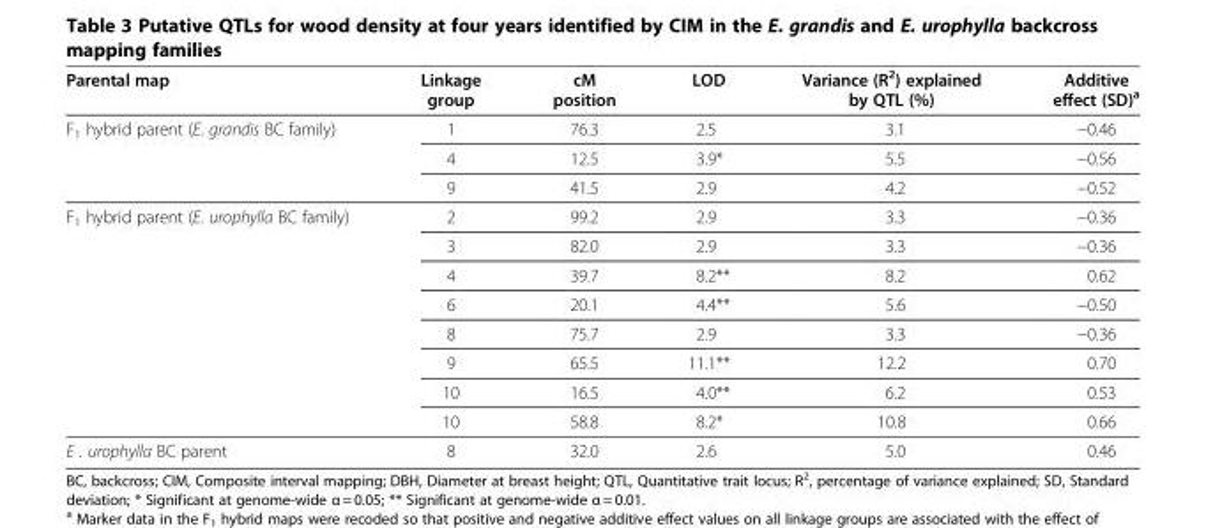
<table><thead><tr><td>Parental map</td><td>Linkage group</td><td>cM position</td><td>LOD</td><td>Variance (R<sup>2</sup>) explained by QTL (%)</td><td>Additive effect (SD)<sup>a</sup></td></tr></thead><tbody><tr><td rowspan="3">F<sub>1</sub> hybrid parent (E. grandis BC family)</td><td>1</td><td>76.3</td><td>2.5</td><td>3.1</td><td>−0.46</td></tr><tr><td>4</td><td>12.5</td><td>3.9*</td><td>5.5</td><td>−0.56</td></tr><tr><td>9</td><td>41.5</td><td>2.9</td><td>4.2</td><td>−0.52</td></tr><tr><td rowspan="8">F<sub>1</sub> hybrid parent (E. urophylla BC family)</td><td>2</td><td>99.2</td><td>2.9</td><td>3.3</td><td>−0.36</td></tr><tr><td>3</td><td>82.0</td><td>2.9</td><td>3.3</td><td>−0.36</td></tr><tr><td>4</td><td>39.7</td><td>8.2**</td><td>8.2</td><td>0.62</td></tr><tr><td>6</td><td>20.1</td><td>4.4**</td><td>5.6</td><td>−0.50</td></tr><tr><td>8</td><td>75.7</td><td>2.9</td><td>3.3</td><td>−0.36</td></tr><tr><td>9</td><td>65.5</td><td>11.1**</td><td>12.2</td><td>0.70</td></tr><tr><td>10</td><td>16.5</td><td>4.0**</td><td>6.2</td><td>0.53</td></tr><tr><td>10</td><td>58.8</td><td>8.2*</td><td>10.8</td><td>0.66</td></tr><tr><td>E . urophylla BC parent</td><td>8</td><td>32.0</td><td>2.6</td><td>5.0</td><td>0.46</td></tr></tbody></table>